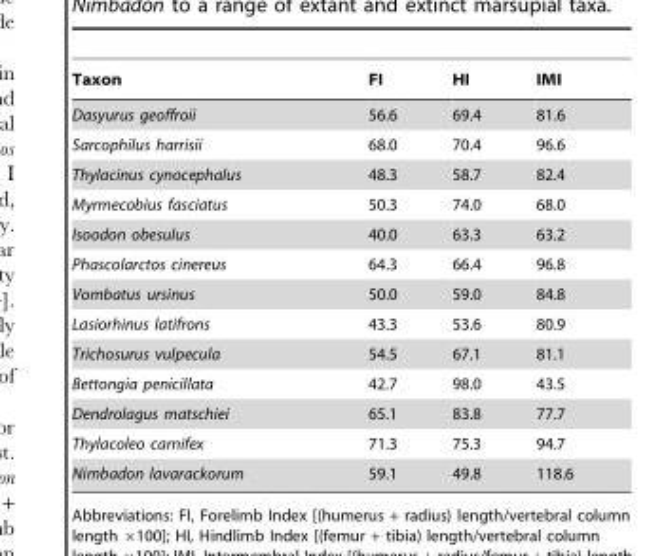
<table><thead><tr><td>Taxon</td><td>FI</td><td>HI</td><td>IMI</td></tr></thead><tbody><tr><td>Dasyurus geoffroii</td><td>56.6</td><td>69.4</td><td>81.6</td></tr><tr><td>Sarcophilus harrisii</td><td>68.0</td><td>70.4</td><td>96.6</td></tr><tr><td>Thylacinus cynocephalus</td><td>48.3</td><td>58.7</td><td>82.4</td></tr><tr><td>Myrmecobius fasciatus</td><td>50.3</td><td>74.0</td><td>68.0</td></tr><tr><td>Isoodon obesulus</td><td>40.0</td><td>63.3</td><td>63.2</td></tr><tr><td>Phascolarctos cinereus</td><td>64.3</td><td>66.4</td><td>96.8</td></tr><tr><td>Vombatus ursinus</td><td>50.0</td><td>59.0</td><td>84.8</td></tr><tr><td>Lasiorhinus latifrons</td><td>43.3</td><td>53.6</td><td>80.9</td></tr><tr><td>Trichosurus vulpecula</td><td>54.5</td><td>67.1</td><td>81.1</td></tr><tr><td>Bettongia penicillata</td><td>42.7</td><td>98.0</td><td>43.5</td></tr><tr><td>Dendrolagus matschiei</td><td>65.1</td><td>83.8</td><td>77.7</td></tr><tr><td>Thylacoleo carnifex</td><td>71.3</td><td>75.3</td><td>94.7</td></tr><tr><td>Nimbadon lavarackorum</td><td>59.1</td><td>49.8</td><td>118.6</td></tr></tbody></table>